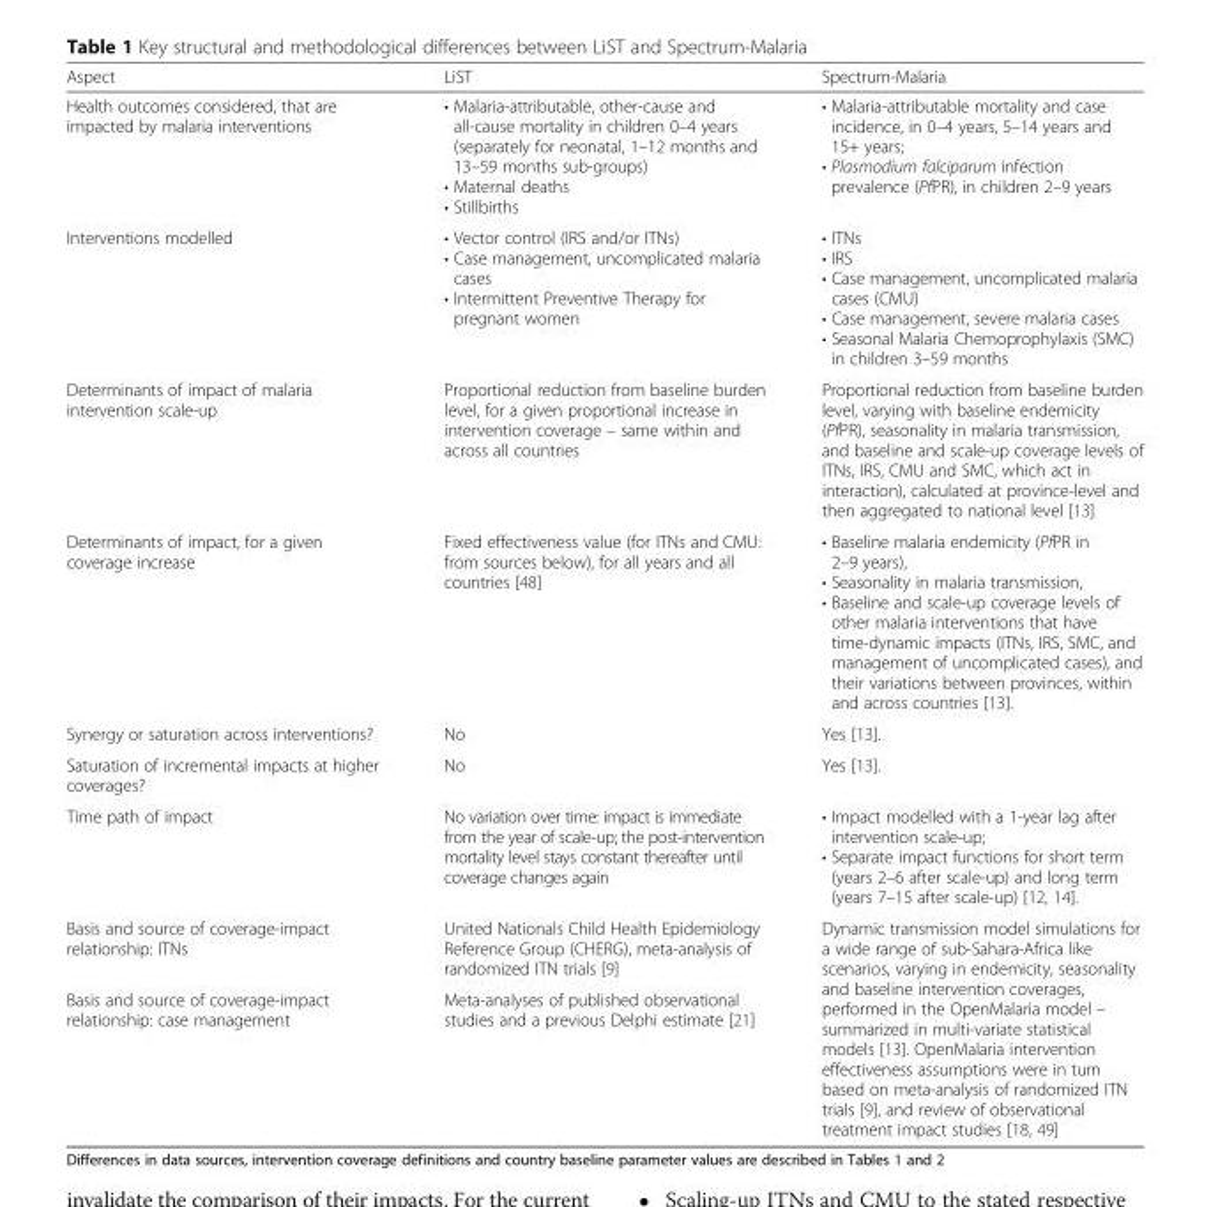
<table><thead><tr><td>Aspect</td><td>LiST</td><td>Spectrum-Malaria</td></tr></thead><tbody><tr><td>Health outcomes considered, that are impacted by malaria interventions</td><td>• Malaria-attributable, other-cause and all-cause mortality in children 0–4 years (separately for neonatal, 1–12 months and 13–59 months sub-groups) • Maternal deaths • Stillbirths</td><td>• Malaria-attributable mortality and case incidence, in 0–4 years, 5–14 years and 15+ years; • Plasmodium falciparum infection prevalence (PfPR), in children 2–9 years</td></tr><tr><td>Interventions modelled</td><td>• Vector control (IRS and/or ITNs) • Case management, uncomplicated malaria cases • Intermittent Preventive Therapy for pregnant women</td><td>• ITNs • IRS • Case management, uncomplicated malaria cases (CMU) • Case management, severe malaria cases • Seasonal Malaria Chemoprophylaxis (SMC) in children 3–59 months</td></tr><tr><td>Determinants of impact of malaria intervention scale-up</td><td>Proportional reduction from baseline burden level, for a given proportional increase in intervention coverage – same within and across all countries</td><td>Proportional reduction from baseline burden level, varying with baseline endemicity (PfPR), seasonality in malaria transmission, and baseline and scale-up coverage levels of ITNs, IRS, CMU and SMC, which act in interaction), calculated at province-level and then aggregated to national level [13]</td></tr><tr><td>Determinants of impact, for a given coverage increase</td><td>Fixed effectiveness value (for ITNs and CMU: from sources below), for all years and all countries [48]</td><td>• Baseline malaria endemicity (PfPR in 2–9 years), • Seasonality in malaria transmission, • Baseline and scale-up coverage levels of other malaria interventions that have time-dynamic impacts (ITNs, IRS, SMC, and management of uncomplicated cases), and their variations between provinces, within and across countries [13].</td></tr><tr><td>Synergy or saturation across interventions?</td><td>No</td><td>Yes [13].</td></tr><tr><td>Saturation of incremental impacts at higher coverages?</td><td>No</td><td>Yes [13].</td></tr><tr><td>Time path of impact</td><td>No variation over time: impact is immediate from the year of scale-up; the post-intervention mortality level stays constant thereafter until coverage changes again</td><td>• Impact modelled with a 1-year lag after intervention scale-up; • Separate impact functions for short term (years 2–6 after scale-up) and long term (years 7–15 after scale-up) [12, 14].</td></tr><tr><td>Basis and source of coverage-impact relationship: ITNs</td><td>United Nationals Child Health Epidemiology Reference Group (CHERG), meta-analysis of randomized ITN trials [9]</td><td rowspan="2">Dynamic transmission model simulations for a wide range of sub-Sahara-Africa like scenarios, varying in endemicity, seasonality and baseline intervention coverages, performed in the OpenMalaria model – summarized in multi-variate statistical models [13]. OpenMalaria intervention effectiveness assumptions were in turn based on meta-analysis of randomized ITN trials [9], and review of observational treatment impact studies [18, 49]</td></tr><tr><td>Basis and source of coverage-impact relationship: case management</td><td>Meta-analyses of published observational studies and a previous Delphi estimate [21]</td></tr></tbody></table>